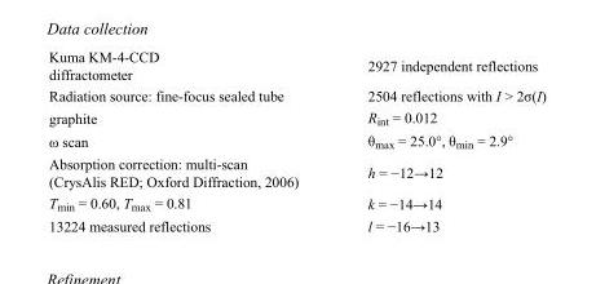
<table><tbody><tr><td>Kuma KM-4-CCD diffractometer</td><td>2927 independent reflections</td></tr><tr><td>Radiation source: fine-focus sealed tube</td><td>2504 reflections with I &gt; 2σ(I)</td></tr><tr><td>graphite</td><td>R<sub>int</sub> = 0.012</td></tr><tr><td>ω scan</td><td>θ<sub>max</sub> = 25.0°, θ<sub>min</sub> = 2.9°</td></tr><tr><td>Absorption correction: multi-scan (CrysAlis RED; Oxford Diffraction, 2006)</td><td>h = −12→12</td></tr><tr><td>T<sub>min</sub> = 0.60, T<sub>max</sub> = 0.81</td><td>k = −14→14</td></tr><tr><td>13224 measured reflections</td><td>l = −16→13</td></tr></tbody></table>